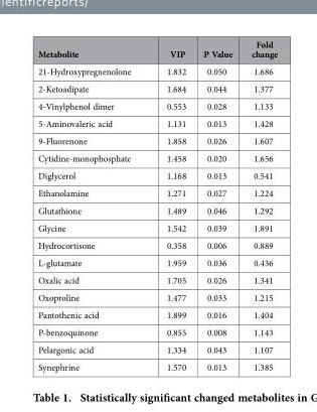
<table><thead><tr><td>Metabolite</td><td>VIP</td><td>P Value</td><td>Fold change</td></tr></thead><tbody><tr><td>21-Hydroxypregnenolone</td><td>1.832</td><td>0.050</td><td>1.686</td></tr><tr><td>2-Ketoadipate</td><td>1.684</td><td>0.044</td><td>1.377</td></tr><tr><td>4-Vinylphenol dimer</td><td>0.553</td><td>0.028</td><td>1.133</td></tr><tr><td>5-Aminovaleric acid</td><td>1.131</td><td>0.013</td><td>1.428</td></tr><tr><td>9-Fluorenone</td><td>1.858</td><td>0.026</td><td>1.607</td></tr><tr><td>Cytidine-monophosphate</td><td>1.458</td><td>0.020</td><td>1.656</td></tr><tr><td>Diglycerol</td><td>1.168</td><td>0.013</td><td>0.541</td></tr><tr><td>Ethanolamine</td><td>1.271</td><td>0.027</td><td>1.224</td></tr><tr><td>Glutathione</td><td>1.489</td><td>0.046</td><td>1.292</td></tr><tr><td>Glycine</td><td>1.542</td><td>0.039</td><td>1.891</td></tr><tr><td>Hydrocortisone</td><td>0.358</td><td>0.006</td><td>0.889</td></tr><tr><td>L-glutamate</td><td>1.959</td><td>0.036</td><td>0.436</td></tr><tr><td>Oxalic acid</td><td>1.705</td><td>0.026</td><td>1.341</td></tr><tr><td>Oxoproline</td><td>1.477</td><td>0.033</td><td>1.215</td></tr><tr><td>Pantothenic acid</td><td>1.899</td><td>0.016</td><td>1.404</td></tr><tr><td>P-benzoquinone</td><td>0.855</td><td>0.008</td><td>1.143</td></tr><tr><td>Pelargonic acid</td><td>1.334</td><td>0.043</td><td>1.107</td></tr><tr><td>Synephrine</td><td>1.570</td><td>0.013</td><td>1.385</td></tr></tbody></table>